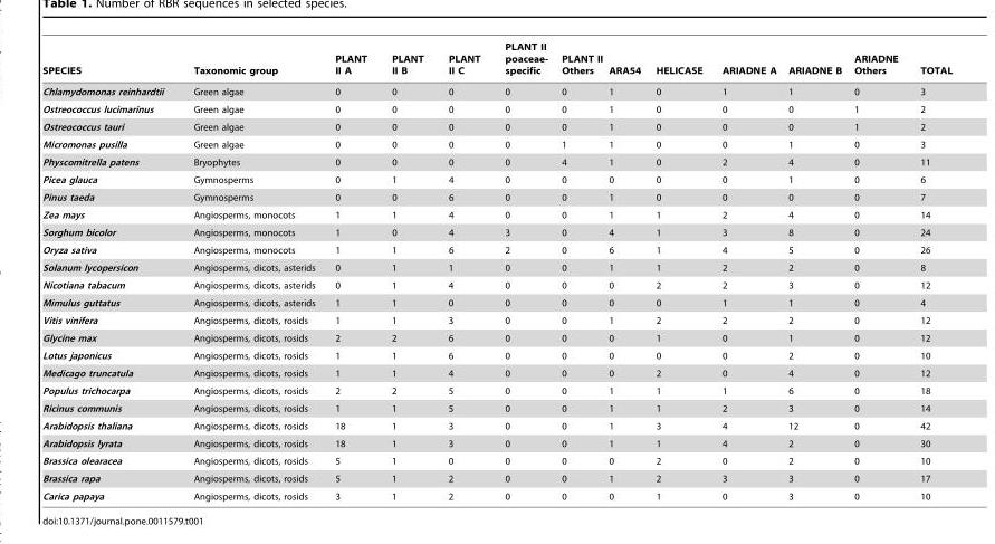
<table><thead><tr><td>SPECIES</td><td>Taxonomic group</td><td>PLANT II A</td><td>PLANT II B</td><td>PLANT II C</td><td>PLANT II poaceae- specific</td><td>PLANT II Others</td><td>ARA54</td><td>HELICASE</td><td>ARIADNE A</td><td>ARIADNE B</td><td>ARIADNE Others</td><td>TOTAL</td></tr></thead><tbody><tr><td>Chlamydomonas reinhardtii</td><td>Green algae</td><td>0</td><td>0</td><td>0</td><td>0</td><td>0</td><td>1</td><td>0</td><td>1</td><td>1</td><td>0</td><td>3</td></tr><tr><td>Ostreococcus lucimarinus</td><td>Green algae</td><td>0</td><td>0</td><td>0</td><td>0</td><td>0</td><td>1</td><td>0</td><td>0</td><td>0</td><td>1</td><td>2</td></tr><tr><td>Ostreococcus tauri</td><td>Green algae</td><td>0</td><td>0</td><td>0</td><td>0</td><td>0</td><td>1</td><td>0</td><td>0</td><td>0</td><td>1</td><td>2</td></tr><tr><td>Micromonas pusilla</td><td>Green algae</td><td>0</td><td>0</td><td>0</td><td>0</td><td>1</td><td>1</td><td>0</td><td>0</td><td>1</td><td>0</td><td>3</td></tr><tr><td>Physcomitrella patens</td><td>Bryophytes</td><td>0</td><td>0</td><td>0</td><td>0</td><td>4</td><td>1</td><td>0</td><td>2</td><td>4</td><td>0</td><td>11</td></tr><tr><td>Picea glauca</td><td>Gymnosperms</td><td>0</td><td>1</td><td>4</td><td>0</td><td>0</td><td>0</td><td>0</td><td>0</td><td>1</td><td>0</td><td>6</td></tr><tr><td>Pinus taeda</td><td>Gymnosperms</td><td>0</td><td>0</td><td>6</td><td>0</td><td>0</td><td>1</td><td>0</td><td>0</td><td>0</td><td>0</td><td>7</td></tr><tr><td>Zea mays</td><td>Angiosperms, monocots</td><td>1</td><td>1</td><td>4</td><td>0</td><td>0</td><td>1</td><td>1</td><td>2</td><td>4</td><td>0</td><td>14</td></tr><tr><td>Sorghum bicolor</td><td>Angiosperms, monocots</td><td>1</td><td>0</td><td>4</td><td>3</td><td>0</td><td>4</td><td>1</td><td>3</td><td>8</td><td>0</td><td>24</td></tr><tr><td>Oryza sativa</td><td>Angiosperms, monocots</td><td>1</td><td>1</td><td>6</td><td>2</td><td>0</td><td>6</td><td>1</td><td>4</td><td>5</td><td>0</td><td>26</td></tr><tr><td>Solanum lycopersicon</td><td>Angiosperms, dicots, asterids</td><td>0</td><td>1</td><td>1</td><td>0</td><td>0</td><td>1</td><td>1</td><td>2</td><td>2</td><td>0</td><td>8</td></tr><tr><td>Nicotiana tabacum</td><td>Angiosperms, dicots, asterids</td><td>0</td><td>1</td><td>4</td><td>0</td><td>0</td><td>0</td><td>2</td><td>2</td><td>3</td><td>0</td><td>12</td></tr><tr><td>Mimulus guttatus</td><td>Angiosperms, dicots, asterids</td><td>1</td><td>1</td><td>0</td><td>0</td><td>0</td><td>0</td><td>0</td><td>1</td><td>1</td><td>0</td><td>4</td></tr><tr><td>Vitis vinifera</td><td>Angiosperms, dicots, rosids</td><td>1</td><td>1</td><td>3</td><td>0</td><td>0</td><td>1</td><td>2</td><td>2</td><td>2</td><td>0</td><td>12</td></tr><tr><td>Glycine max</td><td>Angiosperms, dicots, rosids</td><td>2</td><td>2</td><td>6</td><td>0</td><td>0</td><td>0</td><td>1</td><td>0</td><td>1</td><td>0</td><td>12</td></tr><tr><td>Lotus japonicus</td><td>Angiosperms, dicots, rosids</td><td>1</td><td>1</td><td>6</td><td>0</td><td>0</td><td>0</td><td>0</td><td>0</td><td>2</td><td>0</td><td>10</td></tr><tr><td>Medicago truncatula</td><td>Angiosperms, dicots, rosids</td><td>1</td><td>1</td><td>4</td><td>0</td><td>0</td><td>0</td><td>2</td><td>0</td><td>4</td><td>0</td><td>12</td></tr><tr><td>Populus trichocarpa</td><td>Angiosperms, dicots, rosids</td><td>2</td><td>2</td><td>5</td><td>0</td><td>0</td><td>1</td><td>1</td><td>1</td><td>6</td><td>0</td><td>18</td></tr><tr><td>Ricinus communis</td><td>Angiosperms, dicots, rosids</td><td>1</td><td>1</td><td>5</td><td>0</td><td>0</td><td>1</td><td>1</td><td>2</td><td>3</td><td>0</td><td>14</td></tr><tr><td>Arabidopsis thaliana</td><td>Angiosperms, dicots, rosids</td><td>18</td><td>1</td><td>3</td><td>0</td><td>0</td><td>1</td><td>3</td><td>4</td><td>12</td><td>0</td><td>42</td></tr><tr><td>Arabidopsis lyrata</td><td>Angiosperms, dicots, rosids</td><td>18</td><td>1</td><td>3</td><td>0</td><td>0</td><td>1</td><td>1</td><td>4</td><td>2</td><td>0</td><td>30</td></tr><tr><td>Brassica olearacea</td><td>Angiosperms, dicots, rosids</td><td>5</td><td>1</td><td>0</td><td>0</td><td>0</td><td>0</td><td>2</td><td>0</td><td>2</td><td>0</td><td>10</td></tr><tr><td>Brassica rapa</td><td>Angiosperms, dicots, rosids</td><td>5</td><td>1</td><td>2</td><td>0</td><td>0</td><td>1</td><td>2</td><td>3</td><td>3</td><td>0</td><td>17</td></tr><tr><td>Carica papaya</td><td>Angiosperms, dicots, rosids</td><td>3</td><td>1</td><td>2</td><td>0</td><td>0</td><td>0</td><td>1</td><td>0</td><td>3</td><td>0</td><td>10</td></tr></tbody></table>